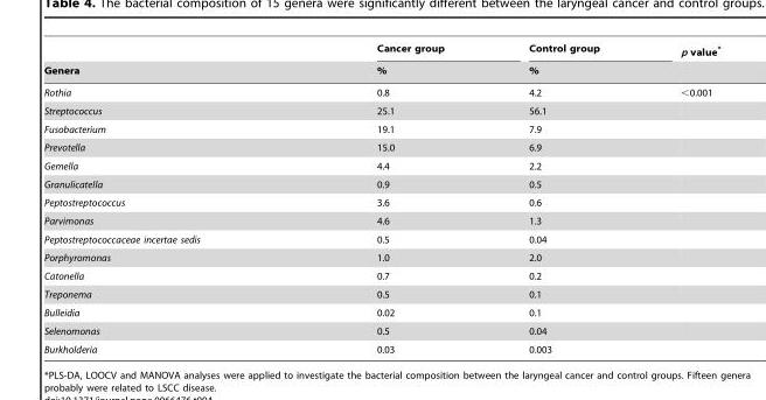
<table><thead><tr><td rowspan="2">Genera</td><td rowspan="2">Cancer group %</td><td rowspan="2">Control group %</td><td rowspan="2">p value*</td></tr><tr></tr></thead><tbody><tr><td>Rothia</td><td>0.8</td><td>4.2</td><td>&lt;0.001</td></tr><tr><td>Streptococcus</td><td>25.1</td><td>56.1</td><td></td></tr><tr><td>Fusobacterium</td><td>19.1</td><td>7.9</td><td></td></tr><tr><td>Prevotella</td><td>15.0</td><td>6.9</td><td></td></tr><tr><td>Gemella</td><td>4.4</td><td>2.2</td><td></td></tr><tr><td>Granulicatella</td><td>0.9</td><td>0.5</td><td></td></tr><tr><td>Peptostreptococcus</td><td>3.6</td><td>0.6</td><td></td></tr><tr><td>Parvimonas</td><td>4.6</td><td>1.3</td><td></td></tr><tr><td>Peptostreptococcaceae incertae sedis</td><td>0.5</td><td>0.04</td><td></td></tr><tr><td>Porphyromonas</td><td>1.0</td><td>2.0</td><td></td></tr><tr><td>Catonella</td><td>0.7</td><td>0.2</td><td></td></tr><tr><td>Treponema</td><td>0.5</td><td>0.1</td><td></td></tr><tr><td>Bulleidia</td><td>0.02</td><td>0.1</td><td></td></tr><tr><td>Selenomonas</td><td>0.5</td><td>0.04</td><td></td></tr><tr><td>Burkholderia</td><td>0.03</td><td>0.003</td><td></td></tr></tbody></table>